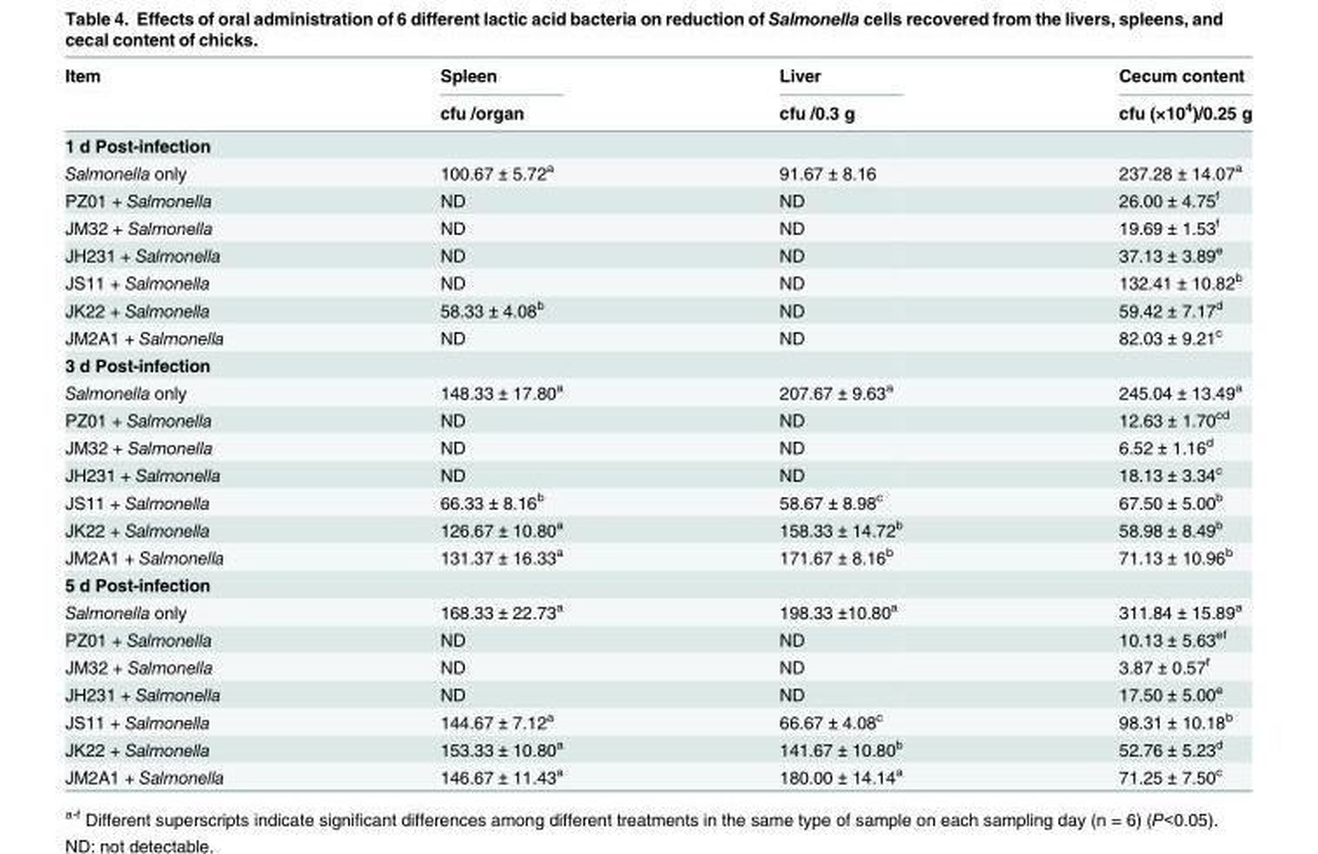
<table><thead><tr><td rowspan="2">Item</td><td rowspan="2">Spleen cfu /organ</td><td rowspan="2">Liver cfu /0.3 g</td><td rowspan="2">Cecum content cfu (×10<sup>4</sup>)/0.25 g</td></tr><tr></tr></thead><tbody><tr><td colspan="4">1 d Post-infection</td></tr><tr><td>Salmonella only</td><td>100.67 ± 5.72<sup>a</sup></td><td>91.67 ± 8.16</td><td>237.28 ± 14.07<sup>a</sup></td></tr><tr><td>PZ01 + Salmonella</td><td>ND</td><td>ND</td><td>26.00 ± 4.75<sup>f</sup></td></tr><tr><td>JM32 + Salmonella</td><td>ND</td><td>ND</td><td>19.69 ± 1.53<sup>f</sup></td></tr><tr><td>JH231 + Salmonella</td><td>ND</td><td>ND</td><td>37.13 ± 3.89<sup>e</sup></td></tr><tr><td>JS11 + Salmonella</td><td>ND</td><td>ND</td><td>132.41 ± 10.82<sup>b</sup></td></tr><tr><td>JK22 + Salmonella</td><td>58.33 ± 4.08<sup>b</sup></td><td>ND</td><td>59.42 ± 7.17<sup>d</sup></td></tr><tr><td>JM2A1 + Salmonella</td><td>ND</td><td>ND</td><td>82.03 ± 9.21<sup>c</sup></td></tr><tr><td colspan="4">3 d Post-infection</td></tr><tr><td>Salmonella only</td><td>148.33 ± 17.80<sup>a</sup></td><td>207.67 ± 9.63<sup>a</sup></td><td>245.04 ± 13.49<sup>a</sup></td></tr><tr><td>PZ01 + Salmonella</td><td>ND</td><td>ND</td><td>12.63 ± 1.70<sup>cd</sup></td></tr><tr><td>JM32 + Salmonella</td><td>ND</td><td>ND</td><td>6.52 ± 1.16<sup>d</sup></td></tr><tr><td>JH231 + Salmonella</td><td>ND</td><td>ND</td><td>18.13 ± 3.34<sup>c</sup></td></tr><tr><td>JS11 + Salmonella</td><td>66.33 ± 8.16<sup>b</sup></td><td>58.67 ± 8.98<sup>c</sup></td><td>67.50 ± 5.00<sup>b</sup></td></tr><tr><td>JK22 + Salmonella</td><td>126.67 ± 10.80<sup>a</sup></td><td>158.33 ± 14.72<sup>b</sup></td><td>58.98 ± 8.49<sup>b</sup></td></tr><tr><td>JM2A1 + Salmonella</td><td>131.37 ± 16.33<sup>a</sup></td><td>171.67 ± 8.16<sup>b</sup></td><td>71.13 ± 10.96<sup>b</sup></td></tr><tr><td colspan="4">5 d Post-infection</td></tr><tr><td>Salmonella only</td><td>168.33 ± 22.73<sup>a</sup></td><td>198.33 ±10.80<sup>a</sup></td><td>311.84 ± 15.89<sup>a</sup></td></tr><tr><td>PZ01 + Salmonella</td><td>ND</td><td>ND</td><td>10.13 ± 5.63<sup>ef</sup></td></tr><tr><td>JM32 + Salmonella</td><td>ND</td><td>ND</td><td>3.87 ± 0.57<sup>f</sup></td></tr><tr><td>JH231 + Salmonella</td><td>ND</td><td>ND</td><td>17.50 ± 5.00<sup>e</sup></td></tr><tr><td>JS11 + Salmonella</td><td>144.67 ± 7.12<sup>a</sup></td><td>66.67 ± 4.08<sup>c</sup></td><td>98.31 ± 10.18<sup>b</sup></td></tr><tr><td>JK22 + Salmonella</td><td>153.33 ± 10.80<sup>a</sup></td><td>141.67 ± 10.80<sup>b</sup></td><td>52.76 ± 5.23<sup>d</sup></td></tr><tr><td>JM2A1 + Salmonella</td><td>146.67 ± 11.43<sup>a</sup></td><td>180.00 ± 14.14<sup>a</sup></td><td>71.25 ± 7.50<sup>c</sup></td></tr></tbody></table>